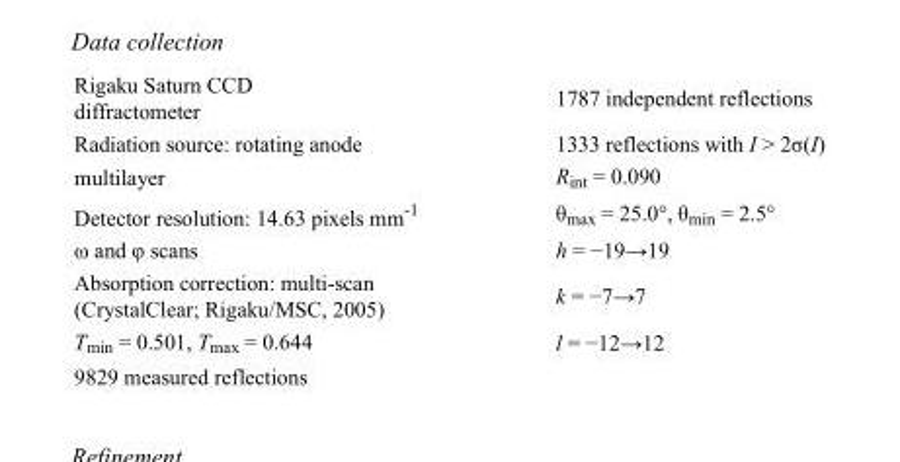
<table><tbody><tr><td>Rigaku Saturn CCD diffractometer</td><td>1787 independent reflections</td></tr><tr><td>Radiation source: rotating anode</td><td>1333 reflections with I &gt; 2σ(I)</td></tr><tr><td>multilayer</td><td>R<sub>int</sub> = 0.090</td></tr><tr><td>Detector resolution: 14.63 pixels mm<sup>-1</sup></td><td>θ<sub>max</sub> = 25.0°, θ<sub>min</sub> = 2.5°</td></tr><tr><td>ω and φ scans</td><td>h = −19→19</td></tr><tr><td>Absorption correction: multi-scan (CrystalClear; Rigaku/MSC, 2005)</td><td>k = −7→7</td></tr><tr><td>T<sub>min</sub> = 0.501, T<sub>max</sub> = 0.644</td><td>l = −12→12</td></tr><tr><td>9829 measured reflections</td><td></td></tr></tbody></table>